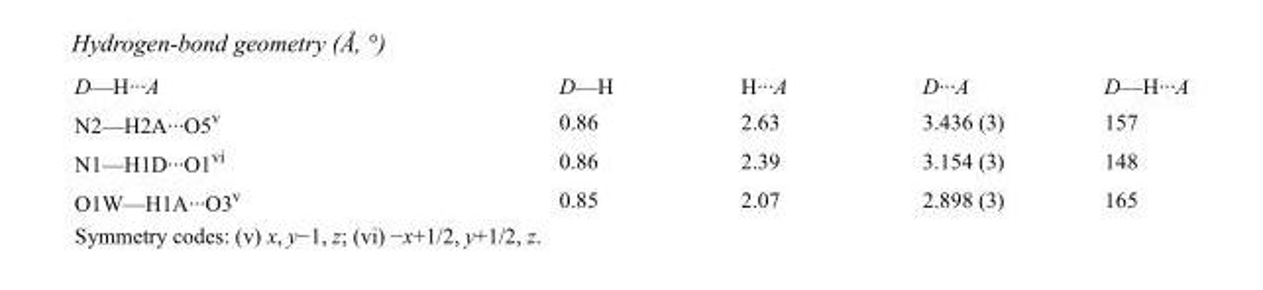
<table><tbody><tr><td>D—H···A</td><td>D—H</td><td>H···A</td><td>D···A</td><td>D—H···A</td></tr><tr><td>N2—H2A···O5<sup>v</sup></td><td>0.86</td><td>2.63</td><td>3.436 (3)</td><td>157</td></tr><tr><td>N1—H1D···O1<sup>vi</sup></td><td>0.86</td><td>2.39</td><td>3.154 (3)</td><td>148</td></tr><tr><td>O1W—H1A···O3<sup>v</sup></td><td>0.85</td><td>2.07</td><td>2.898 (3)</td><td>165</td></tr></tbody></table>